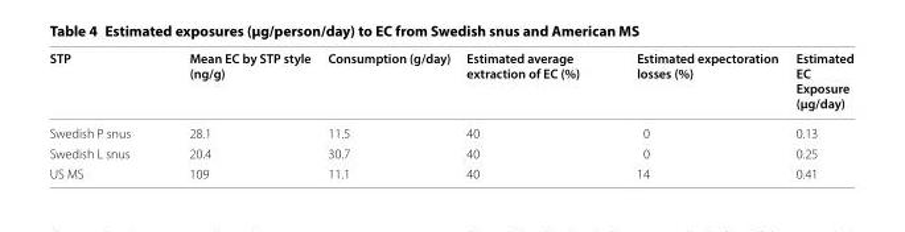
<table><thead><tr><td>STP</td><td>Mean EC by STP style (ng/g)</td><td>Consumption (g/day)</td><td>Estimated average extraction of EC (%)</td><td>Estimated expectoration losses (%)</td><td>Estimated EC Exposure (µg/day)</td></tr></thead><tbody><tr><td>Swedish P snus</td><td>28.1</td><td>11.5</td><td>40</td><td>0</td><td>0.13</td></tr><tr><td>Swedish L snus</td><td>20.4</td><td>30.7</td><td>40</td><td>0</td><td>0.25</td></tr><tr><td>US MS</td><td>109</td><td>11.1</td><td>40</td><td>14</td><td>0.41</td></tr></tbody></table>